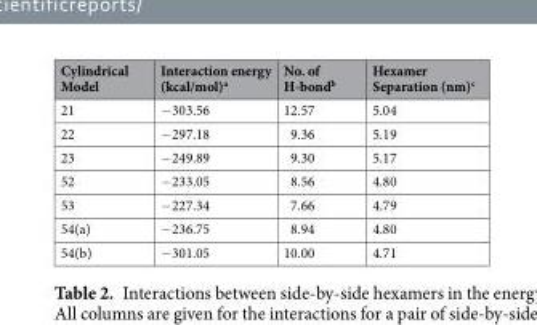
<table><thead><tr><td>Cylindrical Model</td><td>Interaction energy (kcal/mol)<sup>a</sup></td><td>No. of H-bond<sup>b</sup></td><td>Hexamer Separation (nm)<sup>c</sup></td></tr></thead><tbody><tr><td>21</td><td>−303.56</td><td>12.57</td><td>5.04</td></tr><tr><td>22</td><td>−297.18</td><td>9.36</td><td>5.19</td></tr><tr><td>23</td><td>−249.89</td><td>9.30</td><td>5.17</td></tr><tr><td>52</td><td>−233.05</td><td>8.56</td><td>4.80</td></tr><tr><td>53</td><td>−227.34</td><td>7.66</td><td>4.79</td></tr><tr><td>54(a)</td><td>−236.75</td><td>8.94</td><td>4.80</td></tr><tr><td>54(b)</td><td>−301.05</td><td>10.00</td><td>4.71</td></tr></tbody></table>